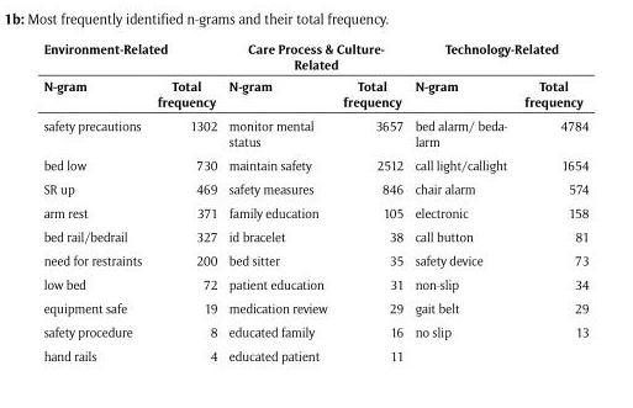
<table><thead><tr><td colspan="2">Environment-Related</td><td colspan="2">Care Process &amp; Culture- Related</td><td colspan="2">Technology-Related</td></tr><tr><td>N-gram</td><td>Total frequency</td><td>N-gram</td><td>Total frequency</td><td>N-gram</td><td>Total frequency</td></tr></thead><tbody><tr><td>safety precautions</td><td>1302</td><td>monitor mental status</td><td>3657</td><td>bed alarm/ beda- larm</td><td>4784</td></tr><tr><td>bed low</td><td>730</td><td>maintain safety</td><td>2512</td><td>call light/callight</td><td>1654</td></tr><tr><td>SR up</td><td>469</td><td>safety measures</td><td>846</td><td>chair alarm</td><td>574</td></tr><tr><td>arm rest</td><td>371</td><td>family education</td><td>105</td><td>electronic</td><td>158</td></tr><tr><td>bed rail/bedrail</td><td>327</td><td>id bracelet</td><td>38</td><td>call button</td><td>81</td></tr><tr><td>need for restraints</td><td>200</td><td>bed sitter</td><td>35</td><td>safety device</td><td>73</td></tr><tr><td>low bed</td><td>72</td><td>patient education</td><td>31</td><td>non-slip</td><td>34</td></tr><tr><td>equipment safe</td><td>19</td><td>medication review</td><td>29</td><td>gait belt</td><td>29</td></tr><tr><td>safety procedure</td><td>8</td><td>educated family</td><td>16</td><td>no slip</td><td>13</td></tr><tr><td>hand rails</td><td>4</td><td>educated patient</td><td>11</td><td></td><td></td></tr></tbody></table>